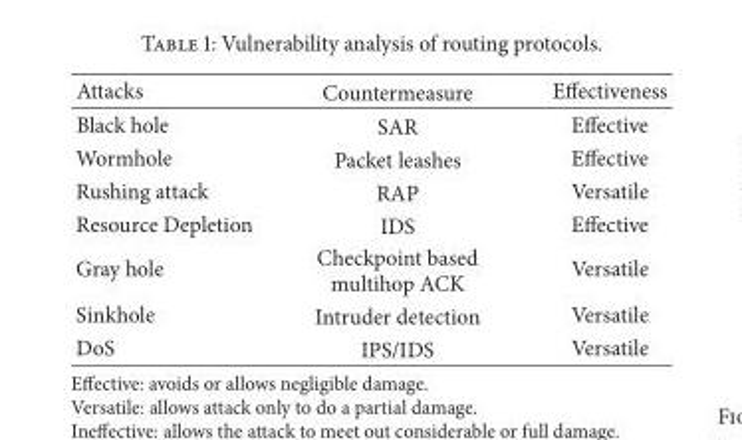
<table><thead><tr><td>Attacks</td><td>Countermeasure</td><td>Effectiveness</td></tr></thead><tbody><tr><td>Black hole</td><td>SAR</td><td>Effective</td></tr><tr><td>Wormhole</td><td>Packet leashes</td><td>Effective</td></tr><tr><td>Rushing attack</td><td>RAP</td><td>Versatile</td></tr><tr><td>Resource Depletion</td><td>IDS</td><td>Effective</td></tr><tr><td>Gray hole</td><td>Checkpoint based multihop ACK</td><td>Versatile</td></tr><tr><td>Sinkhole</td><td>Intruder detection</td><td>Versatile</td></tr><tr><td>DoS</td><td>IPS/IDS</td><td>Versatile</td></tr></tbody></table>